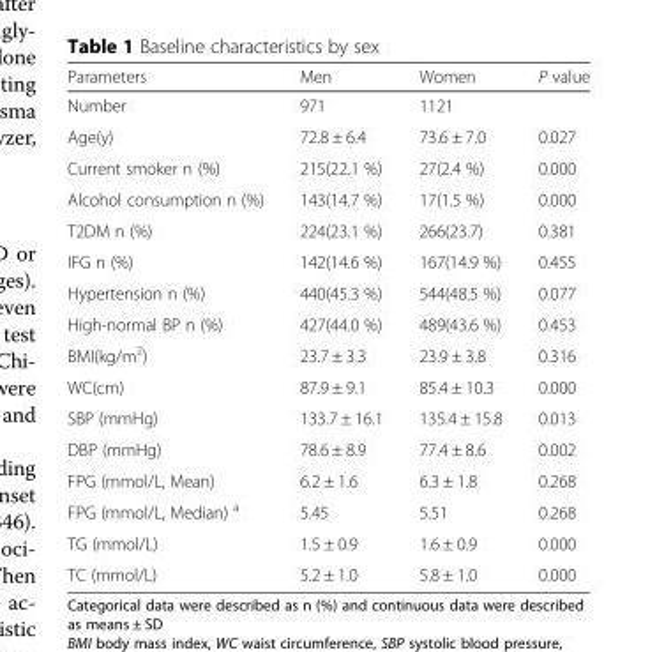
<table><thead><tr><td>Parameters</td><td>Men</td><td>Women</td><td>P value</td></tr></thead><tbody><tr><td>Number</td><td>971</td><td>1121</td><td></td></tr><tr><td>Age(y)</td><td>72.8 ± 6.4</td><td>73.6 ± 7.0</td><td>0.027</td></tr><tr><td>Current smoker n (%)</td><td>215(22.1 %)</td><td>27(2.4 %)</td><td>0.000</td></tr><tr><td>Alcohol consumption n (%)</td><td>143(14.7 %)</td><td>17(1.5 %)</td><td>0.000</td></tr><tr><td>T2DM n (%)</td><td>224(23.1 %)</td><td>266(23.7)</td><td>0.381</td></tr><tr><td>IFG n (%)</td><td>142(14.6 %)</td><td>167(14.9 %)</td><td>0.455</td></tr><tr><td>Hypertension n (%)</td><td>440(45.3 %)</td><td>544(48.5 %)</td><td>0.077</td></tr><tr><td>High-normal BP n (%)</td><td>427(44.0 %)</td><td>489(43.6 %)</td><td>0.453</td></tr><tr><td>BMI(kg/m<sup>2</sup>)</td><td>23.7 ± 3.3</td><td>23.9 ± 3.8</td><td>0.316</td></tr><tr><td>WC(cm)</td><td>87.9 ± 9.1</td><td>85.4 ± 10.3</td><td>0.000</td></tr><tr><td>SBP (mmHg)</td><td>133.7 ± 16.1</td><td>135.4 ± 15.8</td><td>0.013</td></tr><tr><td>DBP (mmHg)</td><td>78.6 ± 8.9</td><td>77.4 ± 8.6</td><td>0.002</td></tr><tr><td>FPG (mmol/L, Mean)</td><td>6.2 ± 1.6</td><td>6.3 ± 1.8</td><td>0.268</td></tr><tr><td>FPG (mmol/L, Median) <sup>a</sup></td><td>5.45</td><td>5.51</td><td>0.268</td></tr><tr><td>TG (mmol/L)</td><td>1.5 ± 0.9</td><td>1.6 ± 0.9</td><td>0.000</td></tr><tr><td>TC (mmol/L)</td><td>5.2 ± 1.0</td><td>5.8 ± 1.0</td><td>0.000</td></tr></tbody></table>